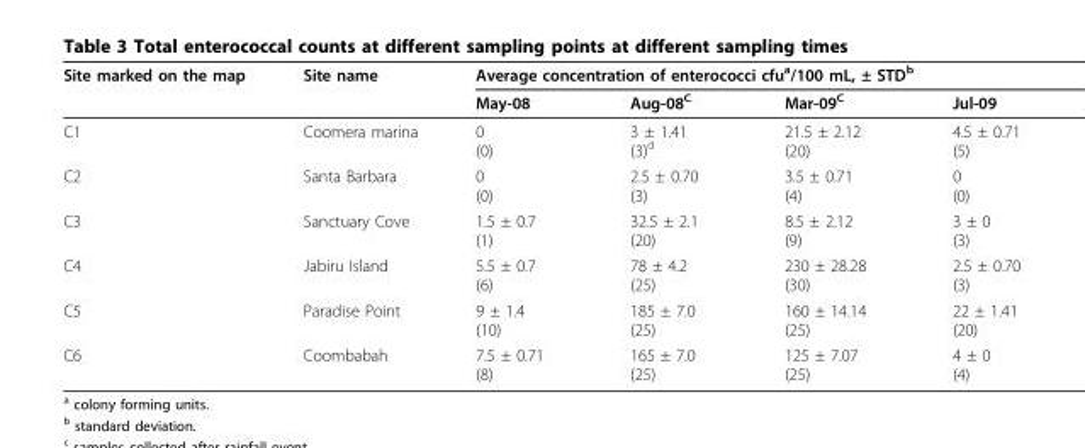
<table><thead><tr><td rowspan="2">Site marked on the map</td><td rowspan="2">Site name</td><td colspan="4">Average concentration of enterococci cfu<sup>a</sup>/100 mL, ± STD<sup>b</sup></td></tr><tr><td>May-08</td><td>Aug-08<sup>C</sup></td><td>Mar-09<sup>C</sup></td><td>Jul-09</td></tr></thead><tbody><tr><td>C1</td><td>Coomera marina</td><td>0 (0)</td><td>3 ± 1.41 (3)<sup>d</sup></td><td>21.5 ± 2.12 (20)</td><td>4.5 ± 0.71 (5)</td></tr><tr><td>C2</td><td>Santa Barbara</td><td>0 (0)</td><td>2.5 ± 0.70 (3)</td><td>3.5 ± 0.71 (4)</td><td>0 (0)</td></tr><tr><td>C3</td><td>Sanctuary Cove</td><td>1.5 ± 0.7 (1)</td><td>32.5 ± 2.1 (20)</td><td>8.5 ± 2.12 (9)</td><td>3 ± 0 (3)</td></tr><tr><td>C4</td><td>Jabiru Island</td><td>5.5 ± 0.7 (6)</td><td>78 ± 4.2 (25)</td><td>230 ± 28.28 (30)</td><td>2.5 ± 0.70 (3)</td></tr><tr><td>C5</td><td>Paradise Point</td><td>9 ± 1.4 (10)</td><td>185 ± 7.0 (25)</td><td>160 ± 14.14 (25)</td><td>22 ± 1.41 (20)</td></tr><tr><td>C6</td><td>Coombabah</td><td>7.5 ± 0.71 (8)</td><td>165 ± 7.0 (25)</td><td>125 ± 7.07 (25)</td><td>4 ± 0 (4)</td></tr></tbody></table>